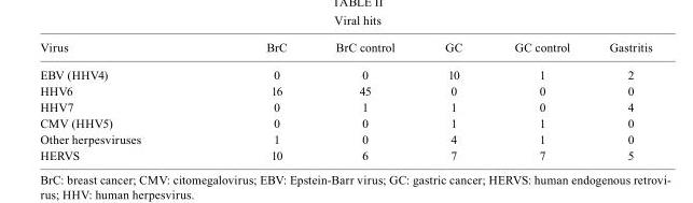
<table><thead><tr><td>Virus</td><td>BrC</td><td>BrC control</td><td>GC</td><td>GC control</td><td>Gastritis</td></tr></thead><tbody><tr><td>EBV (HHV4)</td><td>0</td><td>0</td><td>10</td><td>1</td><td>2</td></tr><tr><td>HHV6</td><td>16</td><td>45</td><td>0</td><td>0</td><td>0</td></tr><tr><td>HHV7</td><td>0</td><td>1</td><td>1</td><td>0</td><td>4</td></tr><tr><td>CMV (HHV5)</td><td>0</td><td>0</td><td>1</td><td>1</td><td>0</td></tr><tr><td>Other herpesviruses</td><td>1</td><td>0</td><td>4</td><td>1</td><td>0</td></tr><tr><td>HERVS</td><td>10</td><td>6</td><td>7</td><td>7</td><td>5</td></tr></tbody></table>